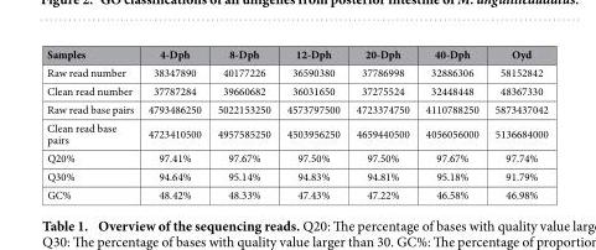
<table><thead><tr><td>Samples</td><td>4-Dph</td><td>8-Dph</td><td>12-Dph</td><td>20-Dph</td><td>40-Dph</td><td>Oyd</td></tr></thead><tbody><tr><td>Raw read number</td><td>38347890</td><td>40177226</td><td>36590380</td><td>37786998</td><td>32886306</td><td>58152842</td></tr><tr><td>Clean read number</td><td>37787284</td><td>39660682</td><td>36031650</td><td>37275524</td><td>32448448</td><td>48367330</td></tr><tr><td>Raw read base pairs</td><td>4793486250</td><td>5022153250</td><td>4573797500</td><td>4723374750</td><td>4110788250</td><td>5873437042</td></tr><tr><td>Clean read base pairs</td><td>4723410500</td><td>4957585250</td><td>4503956250</td><td>4659440500</td><td>4056056000</td><td>5136684000</td></tr><tr><td>Q20%</td><td>97.41%</td><td>97.67%</td><td>97.50%</td><td>97.50%</td><td>97.67%</td><td>97.74%</td></tr><tr><td>Q30%</td><td>94.64%</td><td>95.14%</td><td>94.83%</td><td>94.81%</td><td>95.18%</td><td>91.79%</td></tr><tr><td>GC%</td><td>48.42%</td><td>48.33%</td><td>47.43%</td><td>47.22%</td><td>46.58%</td><td>46.98%</td></tr></tbody></table>